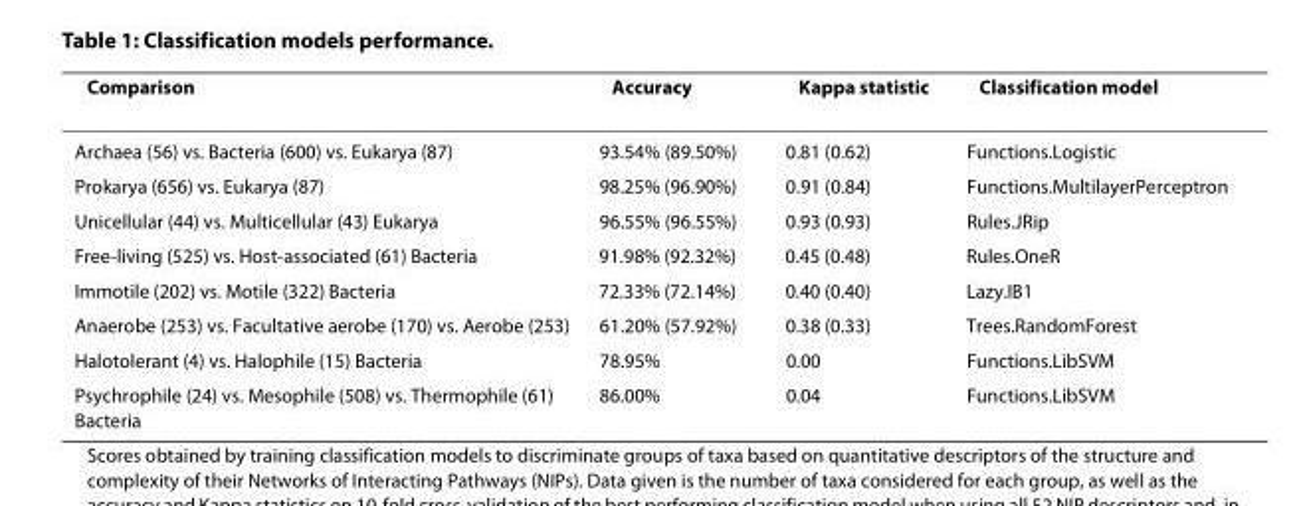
<table><thead><tr><td>Comparison</td><td>Accuracy</td><td>Kappa statistic</td><td>Classification model</td></tr></thead><tbody><tr><td>Archaea (56) vs. Bacteria (600) vs. Eukarya (87)</td><td>93.54% (89.50%)</td><td>0.81 (0.62)</td><td>Functions.Logistic</td></tr><tr><td>Prokarya (656) vs. Eukarya (87)</td><td>98.25% (96.90%)</td><td>0.91 (0.84)</td><td>Functions.MultilayerPerceptron</td></tr><tr><td>Unicellular (44) vs. Multicellular (43) Eukarya</td><td>96.55% (96.55%)</td><td>0.93 (0.93)</td><td>Rules.JRip</td></tr><tr><td>Free-living (525) vs. Host-associated (61) Bacteria</td><td>91.98% (92.32%)</td><td>0.45 (0.48)</td><td>Rules.OneR</td></tr><tr><td>Immotile (202) vs. Motile (322) Bacteria</td><td>72.33% (72.14%)</td><td>0.40 (0.40)</td><td>Lazy.IB1</td></tr><tr><td>Anaerobe (253) vs. Facultative aerobe (170) vs. Aerobe (253)</td><td>61.20% (57.92%)</td><td>0.38 (0.33)</td><td>Trees.RandomForest</td></tr><tr><td>Halotolerant (4) vs. Halophile (15) Bacteria</td><td>78.95%</td><td>0.00</td><td>Functions.LibSVM</td></tr><tr><td>Psychrophile (24) vs. Mesophile (508) vs. Thermophile (61) Bacteria</td><td>86.00%</td><td>0.04</td><td>Functions.LibSVM</td></tr></tbody></table>